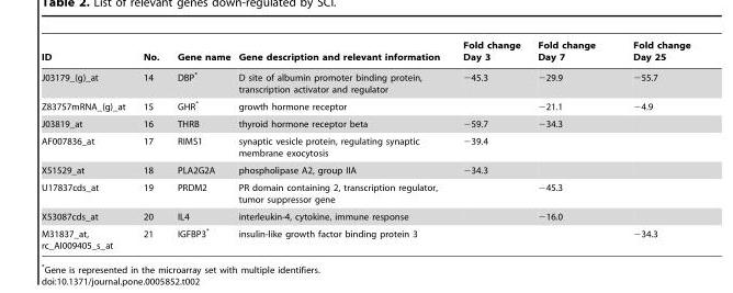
<table><thead><tr><td>ID</td><td>No.</td><td>Gene name</td><td>Gene description and relevant information</td><td>Fold change Day 3</td><td>Fold change Day 7</td><td>Fold change Day 25</td></tr></thead><tbody><tr><td>J03179_(g)_at</td><td>14</td><td>DBP*</td><td>D site of albumin promoter binding protein, transcription activator and regulator</td><td>−45.3</td><td>−29.9</td><td>−55.7</td></tr><tr><td>Z83757mRNA_(g)_at</td><td>15</td><td>GHR*</td><td>growth hormone receptor</td><td></td><td>−21.1</td><td>−4.9</td></tr><tr><td>J03819_at</td><td>16</td><td>THRB</td><td>thyroid hormone receptor beta</td><td>−59.7</td><td>−34.3</td><td></td></tr><tr><td>AF007836_at</td><td>17</td><td>RIMS1</td><td>synaptic vesicle protein, regulating synaptic membrane exocytosis</td><td>−39.4</td><td></td><td></td></tr><tr><td>X51529_at</td><td>18</td><td>PLA2G2A</td><td>phospholipase A2, group IIA</td><td>−34.3</td><td></td><td></td></tr><tr><td>U17837cds_at</td><td>19</td><td>PRDM2</td><td>PR domain containing 2, transcription regulator, tumor suppressor gene</td><td></td><td>−45.3</td><td></td></tr><tr><td>X53087cds_at</td><td>20</td><td>IL4</td><td>interleukin-4, cytokine, immune response</td><td></td><td>−16.0</td><td></td></tr><tr><td>M31837_at, rc_AI009405_s_at</td><td>21</td><td>IGFBP3*</td><td>insulin-like growth factor binding protein 3</td><td></td><td></td><td>−34.3</td></tr></tbody></table>